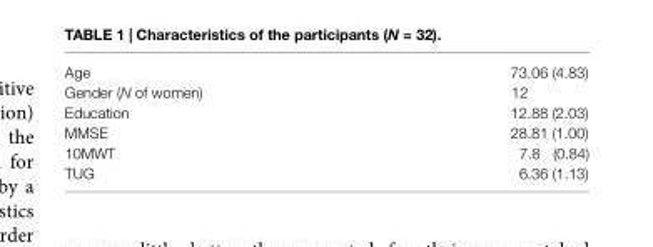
<table><tbody><tr><td>Age</td><td>73.06 (4.83)</td></tr><tr><td>Gender (N of women)</td><td>12</td></tr><tr><td>Education</td><td>12.88 (2.03)</td></tr><tr><td>MMSE</td><td>28.81 (1.00)</td></tr><tr><td>10MWT</td><td>7.8 (0.84)</td></tr><tr><td>TUG</td><td>6.36 (1.13)</td></tr></tbody></table>